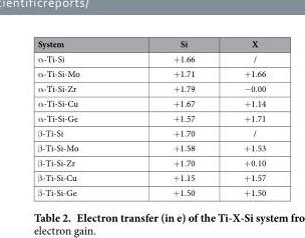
<table><thead><tr><td>System</td><td>Si</td><td>X</td></tr></thead><tbody><tr><td>α -Ti-Si</td><td>+ 1.66</td><td>/</td></tr><tr><td>α -Ti-Si-Mo</td><td>+ 1.71</td><td>+ 1.66</td></tr><tr><td>α -Ti-Si-Zr</td><td>+ 1.79</td><td>− 0.00</td></tr><tr><td>α -Ti-Si-Cu</td><td>+ 1.67</td><td>+ 1.14</td></tr><tr><td>α -Ti-Si-Ge</td><td>+ 1.57</td><td>+ 1.71</td></tr><tr><td>β -Ti-Si</td><td>+ 1.70</td><td>/</td></tr><tr><td>β -Ti-Si-Mo</td><td>+ 1.58</td><td>+ 1.53</td></tr><tr><td>β -Ti-Si-Zr</td><td>+ 1.70</td><td>+ 0.10</td></tr><tr><td>β -Ti-Si-Cu</td><td>+ 1.15</td><td>+ 1.57</td></tr><tr><td>β -Ti-Si-Ge</td><td>+ 1.50</td><td>+ 1.50</td></tr></tbody></table>